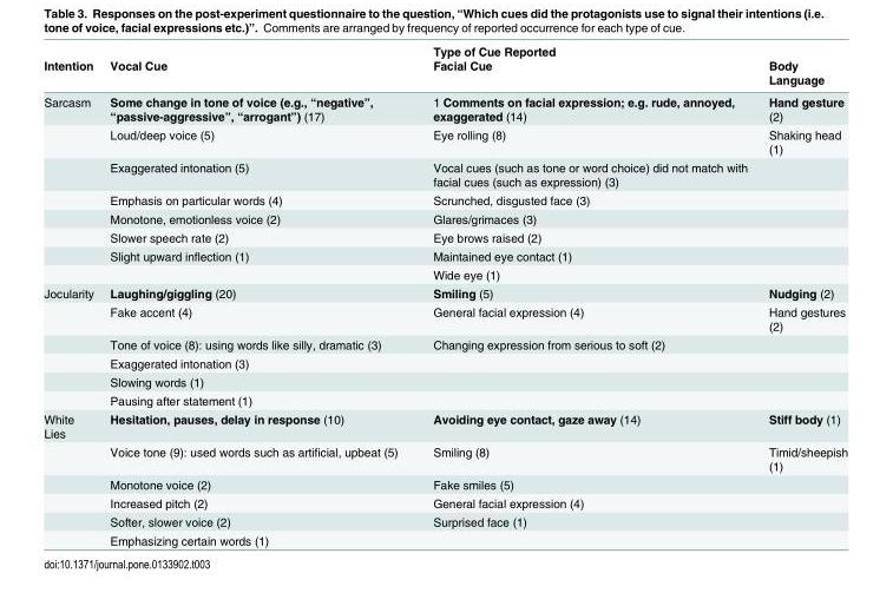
<table><thead><tr><td rowspan="2">Intention</td><td rowspan="2">Vocal Cue</td><td rowspan="2">Type of Cue Reported Facial Cue</td><td rowspan="2">Body Language</td></tr><tr></tr></thead><tbody><tr><td rowspan="8">Sarcasm</td><td>Some change in tone of voice (e.g., “negative”, “passive-aggressive”, “arrogant”) (17)</td><td>1 Comments on facial expression; e.g. rude, annoyed, exaggerated (14)</td><td>Hand gesture (2)</td></tr><tr><td>Loud/deep voice (5)</td><td>Eye rolling (8)</td><td>Shaking head (1)</td></tr><tr><td>Exaggerated intonation (5)</td><td>Vocal cues (such as tone or word choice) did not match with facial cues (such as expression) (3)</td><td></td></tr><tr><td>Emphasis on particular words (4)</td><td>Scrunched, disgusted face (3)</td><td></td></tr><tr><td>Monotone, emotionless voice (2)</td><td>Glares/grimaces (3)</td><td></td></tr><tr><td>Slower speech rate (2)</td><td>Eye brows raised (2)</td><td></td></tr><tr><td>Slight upward inflection (1)</td><td>Maintained eye contact (1)</td><td></td></tr><tr><td></td><td>Wide eye (1)</td><td></td></tr><tr><td rowspan="6">Jocularity</td><td>Laughing/giggling (20)</td><td>Smiling (5)</td><td>Nudging (2)</td></tr><tr><td>Fake accent (4)</td><td>General facial expression (4)</td><td>Hand gestures (2)</td></tr><tr><td>Tone of voice (8): using words like silly, dramatic (3)</td><td>Changing expression from serious to soft (2)</td><td></td></tr><tr><td>Exaggerated intonation (3)</td><td></td><td></td></tr><tr><td>Slowing words (1)</td><td></td><td></td></tr><tr><td>Pausing after statement (1)</td><td></td><td></td></tr><tr><td rowspan="6">White Lies</td><td>Hesitation, pauses, delay in response (10)</td><td>Avoiding eye contact, gaze away (14)</td><td>Stiff body (1)</td></tr><tr><td>Voice tone (9): used words such as artificial, upbeat (5)</td><td>Smiling (8)</td><td>Timid/sheepish (1)</td></tr><tr><td>Monotone voice (2)</td><td>Fake smiles (5)</td><td></td></tr><tr><td>Increased pitch (2)</td><td>General facial expression (4)</td><td></td></tr><tr><td>Softer, slower voice (2)</td><td>Surprised face (1)</td><td></td></tr><tr><td>Emphasizing certain words (1)</td><td></td><td></td></tr></tbody></table>